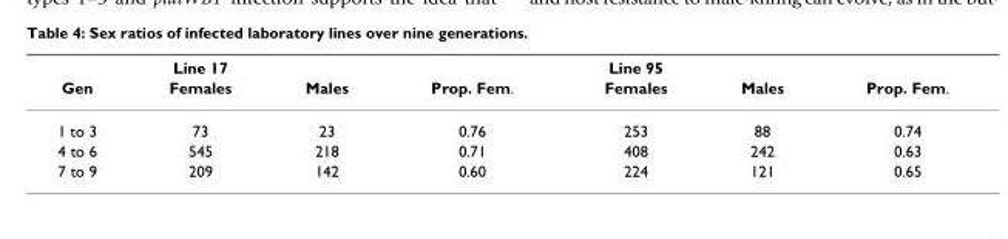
<table><thead><tr><td rowspan="2">Gen</td><td rowspan="2">Line 17 Females</td><td rowspan="2">Males</td><td rowspan="2">Prop. Fem.</td><td rowspan="2">Line 95 Females</td><td rowspan="2">Males</td><td rowspan="2">Prop. Fem.</td></tr><tr></tr></thead><tbody><tr><td>1 to 3</td><td>73</td><td>23</td><td>0.76</td><td>253</td><td>88</td><td>0.74</td></tr><tr><td>4 to 6</td><td>545</td><td>218</td><td>0.71</td><td>408</td><td>242</td><td>0.63</td></tr><tr><td>7 to 9</td><td>209</td><td>142</td><td>0.60</td><td>224</td><td>121</td><td>0.65</td></tr></tbody></table>